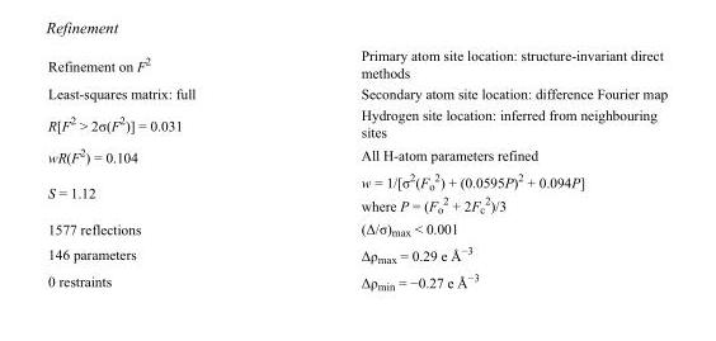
<table><tbody><tr><td>Refinement on F<sup>2</sup></td><td>Primary atom site location: structure-invariant direct methods</td></tr><tr><td>Least-squares matrix: full</td><td>Secondary atom site location: difference Fourier map</td></tr><tr><td>R[F<sup>2</sup> &gt; 2σ(F<sup>2</sup>)] = 0.031</td><td>Hydrogen site location: inferred from neighbouring sites</td></tr><tr><td>wR(F<sup>2</sup>) = 0.104</td><td>All H-atom parameters refined</td></tr><tr><td>S = 1.12</td><td>w = 1/[σ<sup>2</sup>(F<sub>o</sub> <sup>2</sup>) + (0.0595P)<sup>2</sup> + 0.094P] where P = (F<sub>o</sub> <sup>2</sup> + 2F<sub>c</sub> <sup>2</sup>)/3</td></tr><tr><td>1577 reflections</td><td>(Δ/σ)<sub>max</sub> &lt; 0.001</td></tr><tr><td>146 parameters</td><td>Δρ<sub>max</sub> = 0.29 e Å<sup>−3</sup></td></tr><tr><td>0 restraints</td><td>Δρ<sub>min</sub> = −0.27 e Å<sup>−3</sup></td></tr></tbody></table>